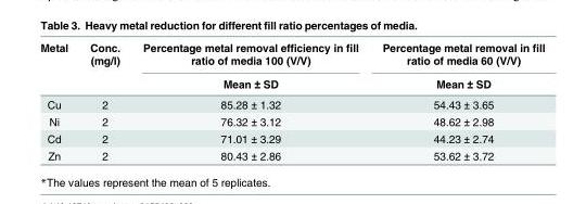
<table><thead><tr><td rowspan="2">Metal</td><td rowspan="2">Conc. (mg/l)</td><td rowspan="2">Percentage metal removal efficiency in fill ratio of media 100 (V/V) Mean ± SD</td><td rowspan="2">Percentage metal removal in fill ratio of media 60 (V/V) Mean ± SD</td></tr><tr></tr></thead><tbody><tr><td>Cu</td><td>2</td><td>85.28 ± 1.32</td><td>54.43 ± 3.65</td></tr><tr><td>Ni</td><td>2</td><td>76.32 ± 3.12</td><td>48.62 ± 2.98</td></tr><tr><td>Cd</td><td>2</td><td>71.01 ± 3.29</td><td>44.23 ± 2.74</td></tr><tr><td>Zn</td><td>2</td><td>80.43 ± 2.86</td><td>53.62 ± 3.72</td></tr></tbody></table>